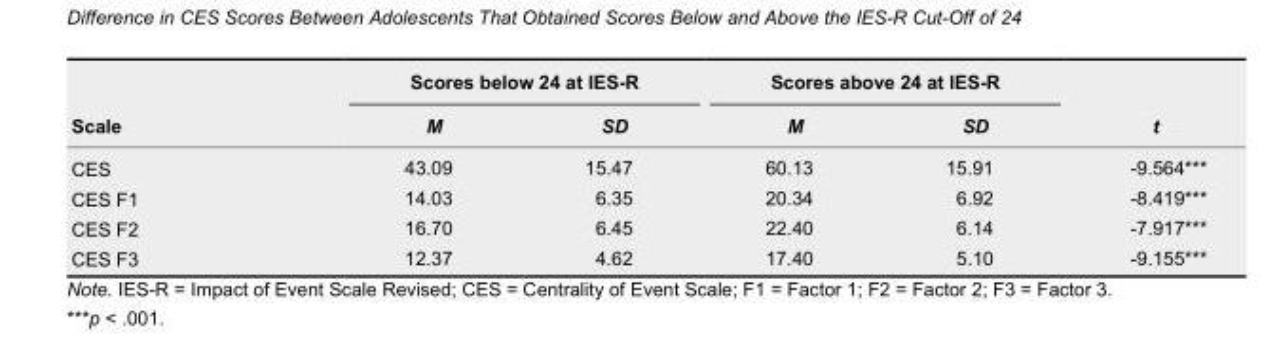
<table><thead><tr><td rowspan="2">Scale</td><td colspan="2">Scores below 24 at IES-R</td><td colspan="2">Scores above 24 at IES-R</td><td rowspan="2">t</td></tr><tr><td>M</td><td>SD</td><td>M</td><td>SD</td></tr></thead><tbody><tr><td>CES</td><td>43.09</td><td>15.47</td><td>60.13</td><td>15.91</td><td>-9.564***</td></tr><tr><td>CES F1</td><td>14.03</td><td>6.35</td><td>20.34</td><td>6.92</td><td>-8.419***</td></tr><tr><td>CES F2</td><td>16.70</td><td>6.45</td><td>22.40</td><td>6.14</td><td>-7.917***</td></tr><tr><td>CES F3</td><td>12.37</td><td>4.62</td><td>17.40</td><td>5.10</td><td>-9.155***</td></tr></tbody></table>